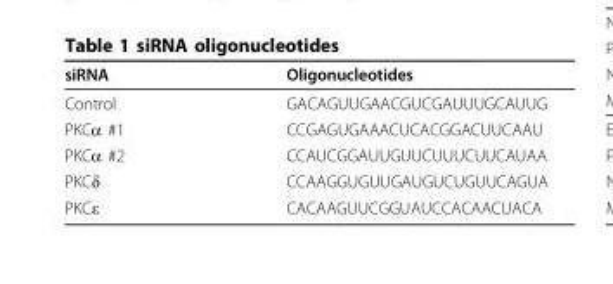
<table><thead><tr><td>siRNA</td><td>Oligonucleotides</td></tr></thead><tbody><tr><td>Control</td><td>GACAGUUGAACGUCGAUUUGCAUUG</td></tr><tr><td>PKCα #1</td><td>CCGAGUGAAACUCACGGACUUCAAU</td></tr><tr><td>PKCα #2</td><td>CCAUCGGAUUGUUCUUUCUUCAUAA</td></tr><tr><td>PKCδ</td><td>CCAAGGUGUUGAUGUCUGUUCAGUA</td></tr><tr><td>PKCε</td><td>CACAAGUUCGGUAUCCACAACUACA</td></tr></tbody></table>